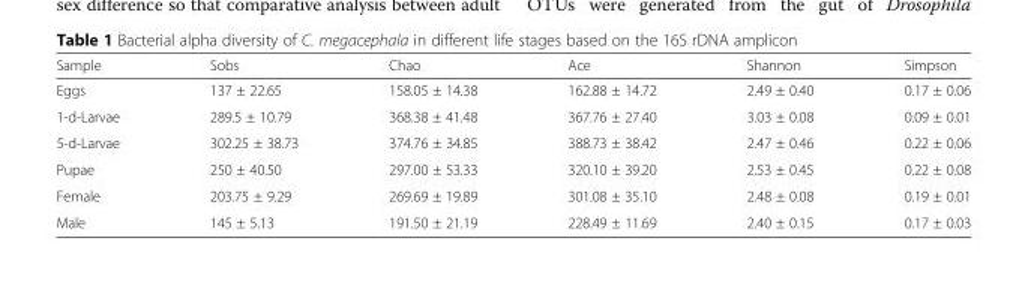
<table><thead><tr><td>Sample</td><td>Sobs</td><td>Chao</td><td>Ace</td><td>Shannon</td><td>Simpson</td></tr></thead><tbody><tr><td>Eggs</td><td>137 ± 22.65</td><td>158.05 ± 14.38</td><td>162.88 ± 14.72</td><td>2.49 ± 0.40</td><td>0.17 ± 0.06</td></tr><tr><td>1-d-Larvae</td><td>289.5 ± 10.79</td><td>368.38 ± 41.48</td><td>367.76 ± 27.40</td><td>3.03 ± 0.08</td><td>0.09 ± 0.01</td></tr><tr><td>5-d-Larvae</td><td>302.25 ± 38.73</td><td>374.76 ± 34.85</td><td>388.73 ± 38.42</td><td>2.47 ± 0.46</td><td>0.22 ± 0.06</td></tr><tr><td>Pupae</td><td>250 ± 40.50</td><td>297.00 ± 53.33</td><td>320.10 ± 39.20</td><td>2.53 ± 0.45</td><td>0.22 ± 0.08</td></tr><tr><td>Female</td><td>203.75 ± 9.29</td><td>269.69 ± 19.89</td><td>301.08 ± 35.10</td><td>2.48 ± 0.08</td><td>0.19 ± 0.01</td></tr><tr><td>Male</td><td>145 ± 5.13</td><td>191.50 ± 21.19</td><td>228.49 ± 11.69</td><td>2.40 ± 0.15</td><td>0.17 ± 0.03</td></tr></tbody></table>